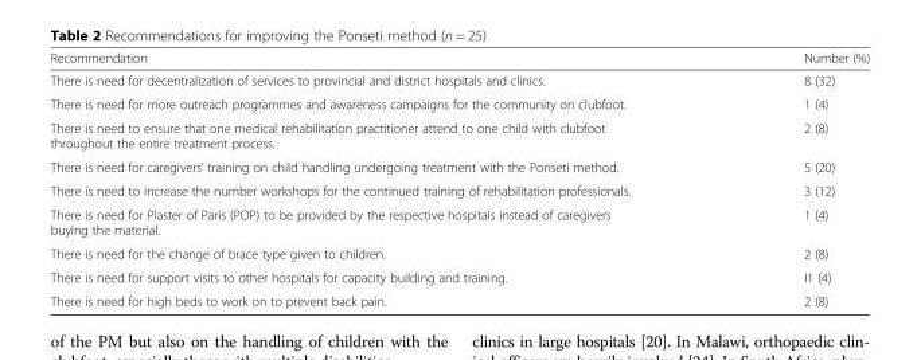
<table><thead><tr><td>Recommendation</td><td>Number (%)</td></tr></thead><tbody><tr><td>There is need for decentralization of services to provincial and district hospitals and clinics.</td><td>8 (32)</td></tr><tr><td>There is need for more outreach programmes and awareness campaigns for the community on clubfoot.</td><td>1 (4)</td></tr><tr><td>There is need to ensure that one medical rehabilitation practitioner attend to one child with clubfoot throughout the entire treatment process.</td><td>2 (8)</td></tr><tr><td>There is need for caregivers’ training on child handling undergoing treatment with the Ponseti method.</td><td>5 (20)</td></tr><tr><td>There is need to increase the number workshops for the continued training of rehabilitation professionals.</td><td>3 (12)</td></tr><tr><td>There is need for Plaster of Paris (POP) to be provided by the respective hospitals instead of caregivers buying the material.</td><td>1 (4)</td></tr><tr><td>There is need for the change of brace type given to children.</td><td>2 (8)</td></tr><tr><td>There is need for support visits to other hospitals for capacity building and training.</td><td>I1 (4)</td></tr><tr><td>There is need for high beds to work on to prevent back pain.</td><td>2 (8)</td></tr></tbody></table>